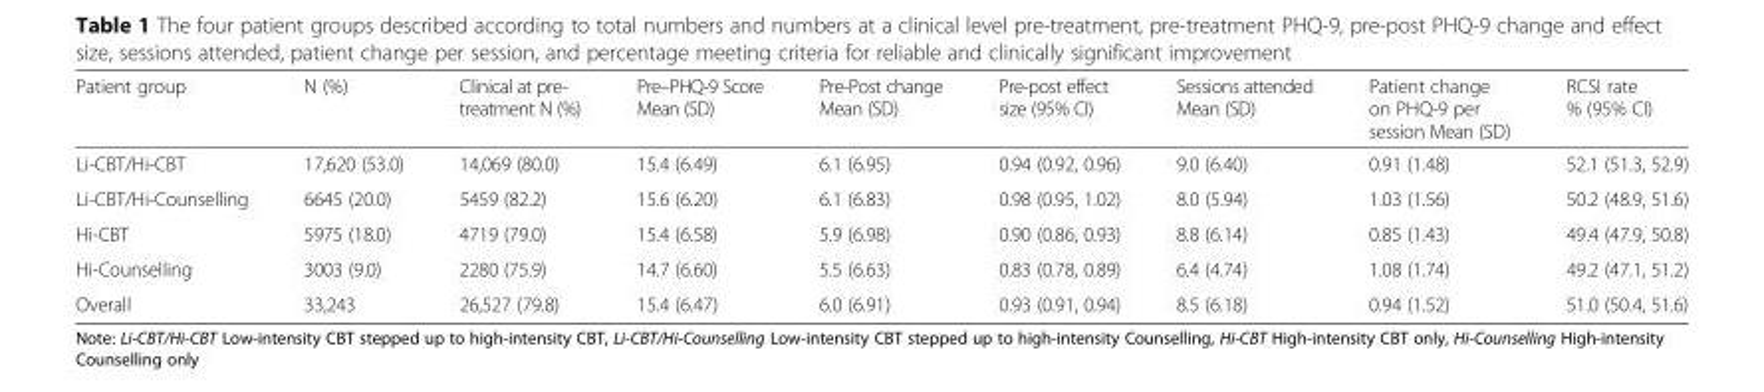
<table><thead><tr><td>Patient group</td><td>N (%)</td><td>Clinical at pre- treatment N (%)</td><td>Pre–PHQ-9 Score Mean (SD)</td><td>Pre-Post change Mean (SD)</td><td>Pre-post effect size (95% CI)</td><td>Sessions attended Mean (SD)</td><td>Patient change on PHQ-9 per session Mean (SD)</td><td>RCSI rate % (95% CI)</td></tr></thead><tbody><tr><td>Li-CBT/Hi-CBT</td><td>17,620 (53.0)</td><td>14,069 (80.0)</td><td>15.4 (6.49)</td><td>6.1 (6.95)</td><td>0.94 (0.92, 0.96)</td><td>9.0 (6.40)</td><td>0.91 (1.48)</td><td>52.1 (51.3, 52.9)</td></tr><tr><td>Li-CBT/Hi-Counselling</td><td>6645 (20.0)</td><td>5459 (82.2)</td><td>15.6 (6.20)</td><td>6.1 (6.83)</td><td>0.98 (0.95, 1.02)</td><td>8.0 (5.94)</td><td>1.03 (1.56)</td><td>50.2 (48.9, 51.6)</td></tr><tr><td>Hi-CBT</td><td>5975 (18.0)</td><td>4719 (79.0)</td><td>15.4 (6.58)</td><td>5.9 (6.98)</td><td>0.90 (0.86, 0.93)</td><td>8.8 (6.14)</td><td>0.85 (1.43)</td><td>49.4 (47.9, 50.8)</td></tr><tr><td>Hi-Counselling</td><td>3003 (9.0)</td><td>2280 (75.9)</td><td>14.7 (6.60)</td><td>5.5 (6.63)</td><td>0.83 (0.78, 0.89)</td><td>6.4 (4.74)</td><td>1.08 (1.74)</td><td>49.2 (47.1, 51.2)</td></tr><tr><td>Overall</td><td>33,243</td><td>26,527 (79.8)</td><td>15.4 (6.47)</td><td>6.0 (6.91)</td><td>0.93 (0.91, 0.94)</td><td>8.5 (6.18)</td><td>0.94 (1.52)</td><td>51.0 (50.4, 51.6)</td></tr></tbody></table>